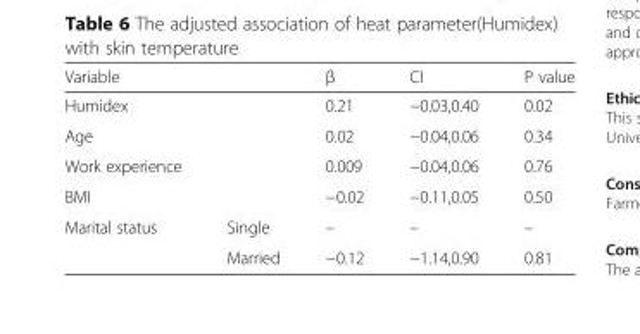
<table><thead><tr><td>Variable</td><td></td><td>β</td><td>CI</td><td>P value</td></tr></thead><tbody><tr><td>Humidex</td><td></td><td>0.21</td><td>−0.03,0.40</td><td>0.02</td></tr><tr><td>Age</td><td></td><td>0.02</td><td>−0.04,0.06</td><td>0.34</td></tr><tr><td>Work experience</td><td></td><td>0.009</td><td>−0.04,0.06</td><td>0.76</td></tr><tr><td>BMI</td><td></td><td>−0.02</td><td>−0.11,0.05</td><td>0.50</td></tr><tr><td rowspan="2">Marital status</td><td>Single</td><td>–</td><td>–</td><td>–</td></tr><tr><td>Married</td><td>−0.12</td><td>−1.14,0.90</td><td>0.81</td></tr></tbody></table>